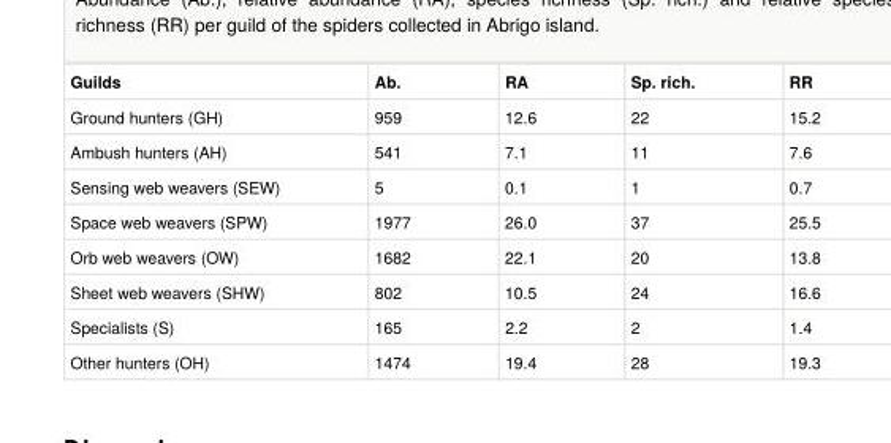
<table><tbody><tr><td>Guilds</td><td>Ab.</td><td>RA</td><td>Sp. rich.</td><td>RR</td></tr><tr><td>Ground hunters (GH)</td><td>959</td><td>12.6</td><td>22</td><td>15.2</td></tr><tr><td>Ambush hunters (AH)</td><td>541</td><td>7.1</td><td>11</td><td>7.6</td></tr><tr><td>Sensing web weavers (SEW)</td><td>5</td><td>0.1</td><td>1</td><td>0.7</td></tr><tr><td>Space web weavers (SPW)</td><td>1977</td><td>26.0</td><td>37</td><td>25.5</td></tr><tr><td>Orb web weavers (OW)</td><td>1682</td><td>22.1</td><td>20</td><td>13.8</td></tr><tr><td>Sheet web weavers (SHW)</td><td>802</td><td>10.5</td><td>24</td><td>16.6</td></tr><tr><td>Specialists (S)</td><td>165</td><td>2.2</td><td>2</td><td>1.4</td></tr><tr><td>Other hunters (OH)</td><td>1474</td><td>19.4</td><td>28</td><td>19.3</td></tr></tbody></table>